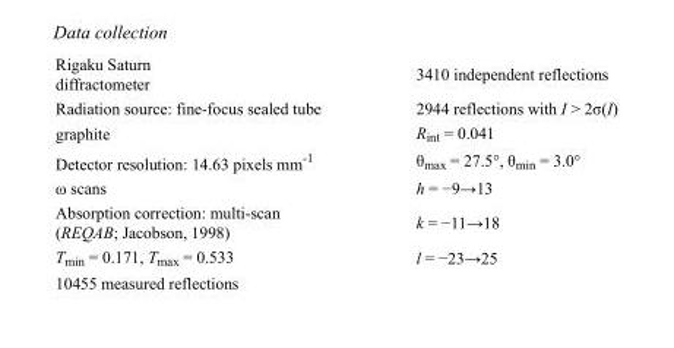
<table><tbody><tr><td>Rigaku Saturn diffractometer</td><td>3410 independent reflections</td></tr><tr><td>Radiation source: fine-focus sealed tube</td><td>2944 reflections with I &gt; 2σ(I)</td></tr><tr><td>graphite</td><td>R<sub>int</sub> = 0.041</td></tr><tr><td>Detector resolution: 14.63 pixels mm<sup>-1</sup></td><td>θ<sub>max</sub> = 27.5°, θ<sub>min</sub> = 3.0°</td></tr><tr><td>ω scans</td><td>h = −9→13</td></tr><tr><td>Absorption correction: multi-scan (REQAB; Jacobson, 1998)</td><td>k = −11→18</td></tr><tr><td>T<sub>min</sub> = 0.171, T<sub>max</sub> = 0.533</td><td>l = −23→25</td></tr><tr><td>10455 measured reflections</td><td></td></tr></tbody></table>